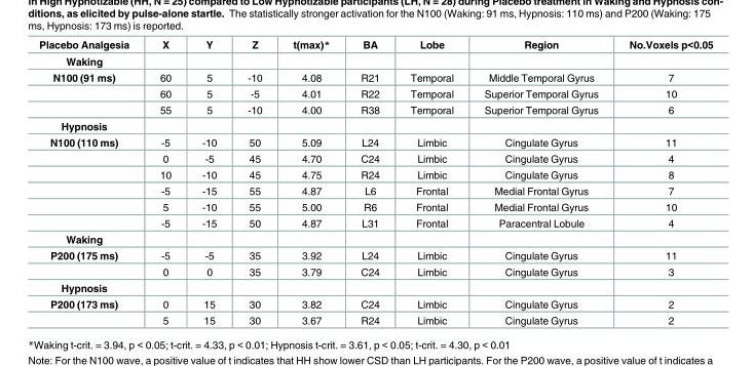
<table><thead><tr><td>Placebo Analgesia</td><td>X</td><td>Y</td><td>Z</td><td>t(max)*</td><td>BA</td><td>Lobe</td><td>Region</td><td>No.Voxels p&lt;0.05</td></tr></thead><tbody><tr><td colspan="9">Waking</td></tr><tr><td rowspan="3">N100 (91 ms)</td><td>60</td><td>5</td><td>-10</td><td>4.08</td><td>R21</td><td>Temporal</td><td>Middle Temporal Gyrus</td><td>7</td></tr><tr><td>60</td><td>5</td><td>-5</td><td>4.01</td><td>R22</td><td>Temporal</td><td>Superior Temporal Gyrus</td><td>10</td></tr><tr><td>55</td><td>5</td><td>-10</td><td>4.00</td><td>R38</td><td>Temporal</td><td>Superior Temporal Gyrus</td><td>6</td></tr><tr><td colspan="9">Hypnosis</td></tr><tr><td rowspan="6">N100 (110 ms)</td><td>-5</td><td>-10</td><td>50</td><td>5.09</td><td>L24</td><td>Limbic</td><td>Cingulate Gyrus</td><td>11</td></tr><tr><td>0</td><td>-5</td><td>45</td><td>4.70</td><td>C24</td><td>Limbic</td><td>Cingulate Gyrus</td><td>4</td></tr><tr><td>10</td><td>-10</td><td>45</td><td>4.75</td><td>R24</td><td>Limbic</td><td>Cingulate Gyrus</td><td>8</td></tr><tr><td>-5</td><td>-15</td><td>55</td><td>4.87</td><td>L6</td><td>Frontal</td><td>Medial Frontal Gyrus</td><td>7</td></tr><tr><td>5</td><td>-10</td><td>55</td><td>5.00</td><td>R6</td><td>Frontal</td><td>Medial Frontal Gyrus</td><td>10</td></tr><tr><td>-5</td><td>-15</td><td>50</td><td>4.87</td><td>L31</td><td>Frontal</td><td>Paracentral Lobule</td><td>4</td></tr><tr><td colspan="9">Waking</td></tr><tr><td rowspan="2">P200 (175 ms)</td><td>-5</td><td>-5</td><td>35</td><td>3.92</td><td>L24</td><td>Limbic</td><td>Cingulate Gyrus</td><td>11</td></tr><tr><td>0</td><td>0</td><td>35</td><td>3.79</td><td>C24</td><td>Limbic</td><td>Cingulate Gyrus</td><td>3</td></tr><tr><td colspan="9">Hypnosis</td></tr><tr><td rowspan="2">P200 (173 ms)</td><td>0</td><td>15</td><td>30</td><td>3.82</td><td>C24</td><td>Limbic</td><td>Cingulate Gyrus</td><td>2</td></tr><tr><td>5</td><td>15</td><td>30</td><td>3.67</td><td>R24</td><td>Limbic</td><td>Cingulate Gyrus</td><td>2</td></tr></tbody></table>